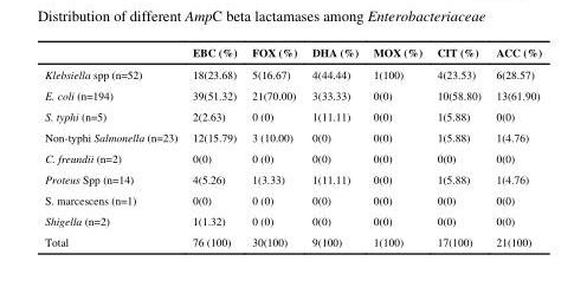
<table><thead><tr><td></td><td>EBC (%)</td><td>FOX (%)</td><td>DHA (%)</td><td>MOX (%)</td><td>CIT (%)</td><td>ACC (%)</td></tr></thead><tbody><tr><td>Klebsiella spp (n=52)</td><td>18(23.68)</td><td>5(16.67)</td><td>4(44.44)</td><td>1(100)</td><td>4(23.53)</td><td>6(28.57)</td></tr><tr><td>E. coli (n=194)</td><td>39(51.32)</td><td>21(70.00)</td><td>3(33.33)</td><td>0(0)</td><td>10(58.80)</td><td>13(61.90)</td></tr><tr><td>S. typhi (n=5)</td><td>2(2.63)</td><td>0 (0)</td><td>1(11.11)</td><td>0(0)</td><td>1(5.88)</td><td>0(0)</td></tr><tr><td>Non-typhi Salmonella (n=23)</td><td>12(15.79)</td><td>3 (10.00)</td><td>0(0)</td><td>0(0)</td><td>1(5.88)</td><td>1(4.76)</td></tr><tr><td>C. freundii (n=2)</td><td>0(0)</td><td>0 (0)</td><td>0(0)</td><td>0(0)</td><td>0(0)</td><td>0(0)</td></tr><tr><td>Proteus Spp (n=14)</td><td>4(5.26)</td><td>1(3.33)</td><td>1(11.11)</td><td>0(0)</td><td>1(5.88)</td><td>1(4.76)</td></tr><tr><td>S. marcescens (n=1)</td><td>0(0)</td><td>0 (0)</td><td>0(0)</td><td>0(0)</td><td>0(0)</td><td>0(0)</td></tr><tr><td>Shigella (n=2)</td><td>1(1.32)</td><td>0 (0)</td><td>0(0)</td><td>0(0)</td><td>0(0)</td><td>0(0)</td></tr><tr><td>Total</td><td>76 (100)</td><td>30(100)</td><td>9(100)</td><td>1(100)</td><td>17(100)</td><td>21(100)</td></tr></tbody></table>